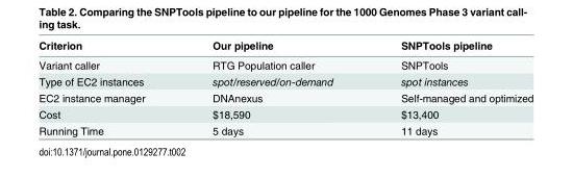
<table><thead><tr><td>Criterion</td><td>Our pipeline</td><td>SNPTools pipeline</td></tr></thead><tbody><tr><td>Variant caller</td><td>RTG Population caller</td><td>SNPTools</td></tr><tr><td>Type of EC2 instances</td><td>spot/reserved/on-demand</td><td>spot instances</td></tr><tr><td>EC2 instance manager</td><td>DNAnexus</td><td>Self-managed and optimized</td></tr><tr><td>Cost</td><td>$18,590</td><td>$13,400</td></tr><tr><td>Running Time</td><td>5 days</td><td>11 days</td></tr></tbody></table>